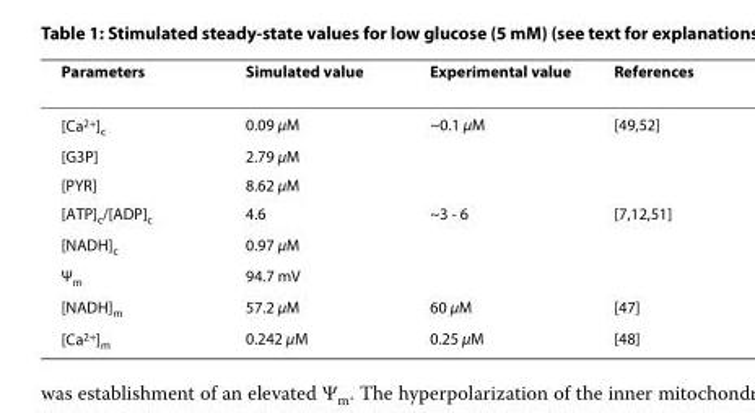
<table><thead><tr><td>Parameters</td><td>Simulated value</td><td>Experimental value</td><td>References</td></tr></thead><tbody><tr><td>[Ca<sup>2+</sup>]<sub>c</sub></td><td>0.09 μM</td><td>~0.1 μM</td><td>[49,52]</td></tr><tr><td>[G3P]</td><td>2.79 μM</td><td></td><td></td></tr><tr><td>[PYR]</td><td>8.62 μM</td><td></td><td></td></tr><tr><td>[ATP]<sub>c</sub>/[ADP]<sub>c</sub></td><td>4.6</td><td>~3 - 6</td><td>[7,12,51]</td></tr><tr><td>[NADH]<sub>c</sub></td><td>0.97 μM</td><td></td><td></td></tr><tr><td>Ψ<sub>m</sub></td><td>94.7 mV</td><td></td><td></td></tr><tr><td>[NADH]<sub>m</sub></td><td>57.2 μM</td><td>60 μM</td><td>[47]</td></tr><tr><td>[Ca<sup>2+</sup>]<sub>m</sub></td><td>0.242 μM</td><td>0.25 μM</td><td>[48]</td></tr></tbody></table>